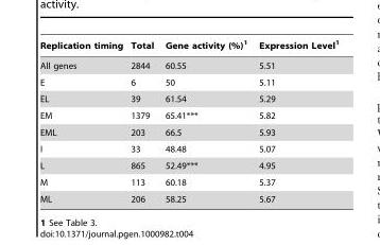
<table><thead><tr><td>Replication timing</td><td>Total</td><td>Gene activity (%)<sup>1</sup></td><td>Expression Level<sup>1</sup></td></tr></thead><tbody><tr><td>All genes</td><td>2844</td><td>60.55</td><td>5.51</td></tr><tr><td>E</td><td>6</td><td>50</td><td>5.11</td></tr><tr><td>EL</td><td>39</td><td>61.54</td><td>5.29</td></tr><tr><td>EM</td><td>1379</td><td>65.41***</td><td>5.82</td></tr><tr><td>EML</td><td>203</td><td>66.5</td><td>5.93</td></tr><tr><td>I</td><td>33</td><td>48.48</td><td>5.07</td></tr><tr><td>L</td><td>865</td><td>52.49***</td><td>4.95</td></tr><tr><td>M</td><td>113</td><td>60.18</td><td>5.37</td></tr><tr><td>ML</td><td>206</td><td>58.25</td><td>5.67</td></tr></tbody></table>